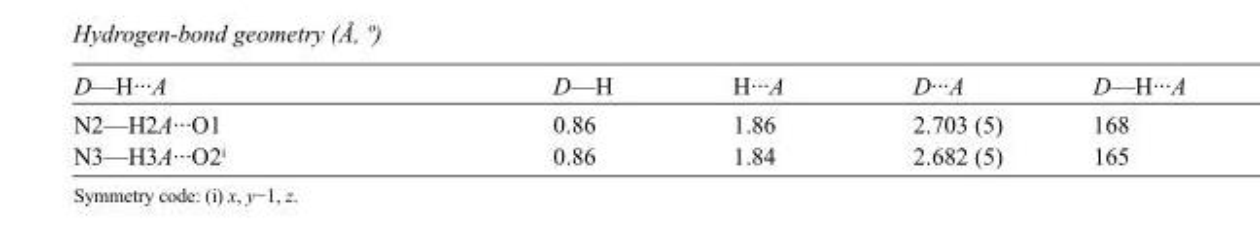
<table><tbody><tr><td>D—H···A</td><td>D—H</td><td>H···A</td><td>D···A</td><td>D—H···A</td></tr><tr><td>N2—H2A···O1</td><td>0.86</td><td>1.86</td><td>2.703 (5)</td><td>168</td></tr><tr><td>N3—H3A···O2<sup>i</sup></td><td>0.86</td><td>1.84</td><td>2.682 (5)</td><td>165</td></tr></tbody></table>